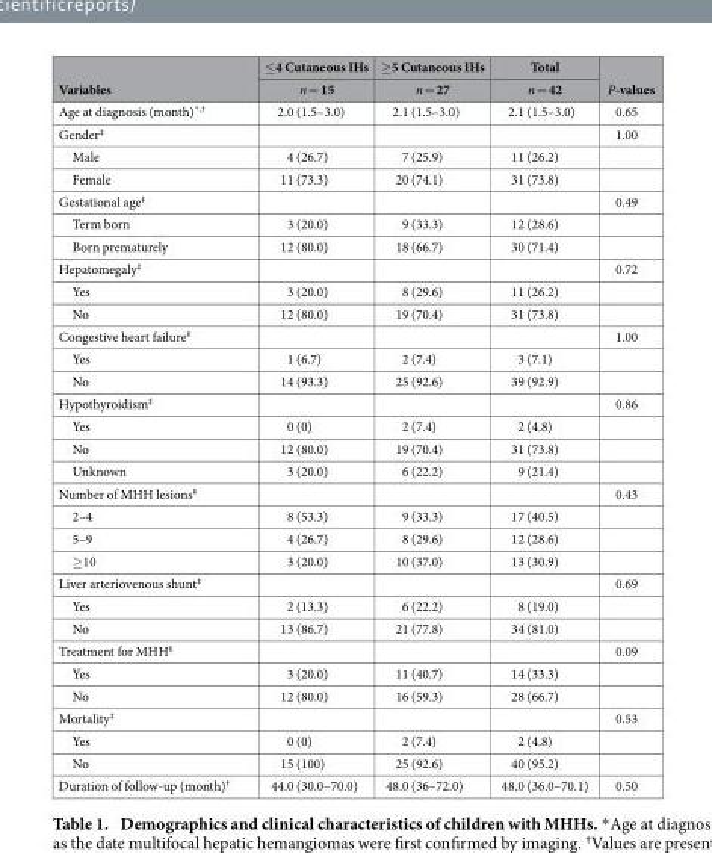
<table><thead><tr><td rowspan="2">Variables</td><td rowspan="2">≤ 4 Cutaneous IHs n = 15</td><td rowspan="2">≥ 5 Cutaneous IHs n = 27</td><td rowspan="2">Total n = 42</td><td rowspan="2">P-values</td></tr><tr></tr></thead><tbody><tr><td>Age at diagnosis (month)*,†</td><td>2.0 (1.5–3.0)</td><td>2.1 (1.5–3.0)</td><td>2.1 (1.5–3.0)</td><td>0.65</td></tr><tr><td>Gender‡</td><td></td><td></td><td></td><td>1.00</td></tr><tr><td>Male</td><td>4 (26.7)</td><td>7 (25.9)</td><td>11 (26.2)</td><td></td></tr><tr><td>Female</td><td>11 (73.3)</td><td>20 (74.1)</td><td>31 (73.8)</td><td></td></tr><tr><td>Gestational age‡</td><td></td><td></td><td></td><td>0.49</td></tr><tr><td>Term born</td><td>3 (20.0)</td><td>9 (33.3)</td><td>12 (28.6)</td><td></td></tr><tr><td>Born prematurely</td><td>12 (80.0)</td><td>18 (66.7)</td><td>30 (71.4)</td><td></td></tr><tr><td>Hepatomegaly‡</td><td></td><td></td><td></td><td>0.72</td></tr><tr><td>Yes</td><td>3 (20.0)</td><td>8 (29.6)</td><td>11 (26.2)</td><td></td></tr><tr><td>No</td><td>12 (80.0)</td><td>19 (70.4)</td><td>31 (73.8)</td><td></td></tr><tr><td>Congestive heart failure‡</td><td></td><td></td><td></td><td>1.00</td></tr><tr><td>Yes</td><td>1 (6.7)</td><td>2 (7.4)</td><td>3 (7.1)</td><td></td></tr><tr><td>No</td><td>14 (93.3)</td><td>25 (92.6)</td><td>39 (92.9)</td><td></td></tr><tr><td>Hypothyroidism‡</td><td></td><td></td><td></td><td>0.86</td></tr><tr><td>Yes</td><td>0 (0)</td><td>2 (7.4)</td><td>2 (4.8)</td><td></td></tr><tr><td>No</td><td>12 (80.0)</td><td>19 (70.4)</td><td>31 (73.8)</td><td></td></tr><tr><td>Unknown</td><td>3 (20.0)</td><td>6 (22.2)</td><td>9 (21.4)</td><td></td></tr><tr><td>Number of MHH lesions‡</td><td></td><td></td><td></td><td>0.43</td></tr><tr><td>2–4</td><td>8 (53.3)</td><td>9 (33.3)</td><td>17 (40.5)</td><td></td></tr><tr><td>5–9</td><td>4 (26.7)</td><td>8 (29.6)</td><td>12 (28.6)</td><td></td></tr><tr><td>≥ 10</td><td>3 (20.0)</td><td>10 (37.0)</td><td>13 (30.9)</td><td></td></tr><tr><td>Liver arteriovenous shunt‡</td><td></td><td></td><td></td><td>0.69</td></tr><tr><td>Yes</td><td>2 (13.3)</td><td>6 (22.2)</td><td>8 (19.0)</td><td></td></tr><tr><td>No</td><td>13 (86.7)</td><td>21 (77.8)</td><td>34 (81.0)</td><td></td></tr><tr><td>Treatment for MHH‡</td><td></td><td></td><td></td><td>0.09</td></tr><tr><td>Yes</td><td>3 (20.0)</td><td>11 (40.7)</td><td>14 (33.3)</td><td></td></tr><tr><td>No</td><td>12 (80.0)</td><td>16 (59.3)</td><td>28 (66.7)</td><td></td></tr><tr><td>Mortality‡</td><td></td><td></td><td></td><td>0.53</td></tr><tr><td>Yes</td><td>0 (0)</td><td>2 (7.4)</td><td>2 (4.8)</td><td></td></tr><tr><td>No</td><td>15 (100)</td><td>25 (92.6)</td><td>40 (95.2)</td><td></td></tr><tr><td>Duration of follow-up (month)†</td><td>44.0 (30.0–70.0)</td><td>48.0 (36–72.0)</td><td>48.0 (36.0–70.1)</td><td>0.50</td></tr></tbody></table>